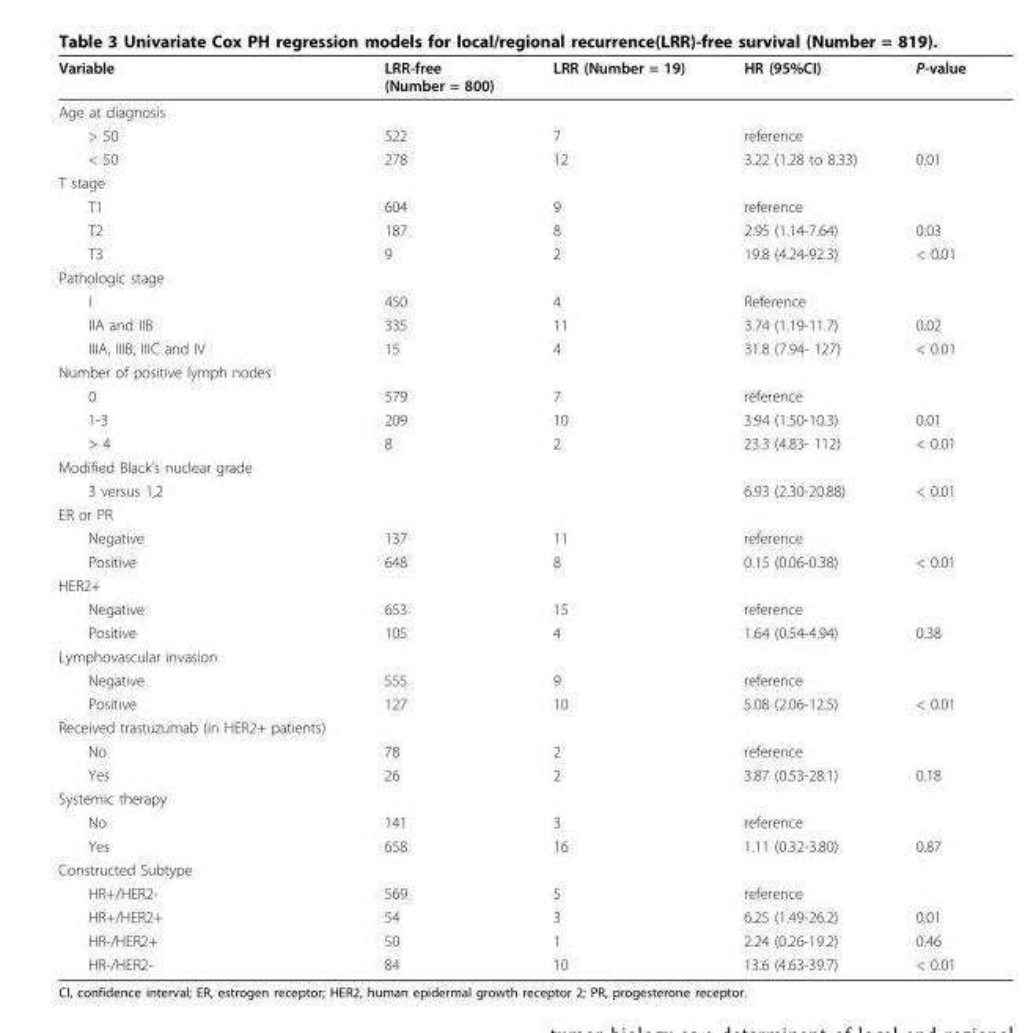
<table><thead><tr><td>Variable</td><td>LRR-free (Number = 800)</td><td>LRR (Number = 19)</td><td>HR (95%CI)</td><td>P-value</td></tr></thead><tbody><tr><td colspan="5">Age at diagnosis</td></tr><tr><td>&gt; 50</td><td>522</td><td>7</td><td>reference</td><td></td></tr><tr><td>&lt; 50</td><td>278</td><td>12</td><td>3.22 (1.28 to 8.33)</td><td>0.01</td></tr><tr><td colspan="5">T stage</td></tr><tr><td>T1</td><td>604</td><td>9</td><td>reference</td><td></td></tr><tr><td>T2</td><td>187</td><td>8</td><td>2.95 (1.14-7.64)</td><td>0.03</td></tr><tr><td>T3</td><td>9</td><td>2</td><td>19.8 (4.24-92.3)</td><td>&lt; 0.01</td></tr><tr><td colspan="5">Pathologic stage</td></tr><tr><td>I</td><td>450</td><td>4</td><td>Reference</td><td></td></tr><tr><td>IIA and IIB</td><td>335</td><td>11</td><td>3.74 (1.19-11.7)</td><td>0.02</td></tr><tr><td>IIIA, IIIB, IIIC and IV</td><td>15</td><td>4</td><td>31.8 (7.94- 127)</td><td>&lt; 0.01</td></tr><tr><td colspan="5">Number of positive lymph nodes</td></tr><tr><td>0</td><td>579</td><td>7</td><td>reference</td><td></td></tr><tr><td>1-3</td><td>209</td><td>10</td><td>3.94 (1.50-10.3)</td><td>0.01</td></tr><tr><td>&gt; 4</td><td>8</td><td>2</td><td>23.3 (4.83- 112)</td><td>&lt; 0.01</td></tr><tr><td colspan="5">Modified Black’s nuclear grade</td></tr><tr><td>3 versus 1,2</td><td></td><td></td><td>6.93 (2.30-20.88)</td><td>&lt; 0.01</td></tr><tr><td colspan="5">ER or PR</td></tr><tr><td>Negative</td><td>137</td><td>11</td><td>reference</td><td></td></tr><tr><td>Positive</td><td>648</td><td>8</td><td>0.15 (0.06-0.38)</td><td>&lt; 0.01</td></tr><tr><td colspan="5">HER2+</td></tr><tr><td>Negative</td><td>653</td><td>15</td><td>reference</td><td></td></tr><tr><td>Positive</td><td>105</td><td>4</td><td>1.64 (0.54-4.94)</td><td>0.38</td></tr><tr><td colspan="5">Lymphovascular invasion</td></tr><tr><td>Negative</td><td>555</td><td>9</td><td>reference</td><td></td></tr><tr><td>Positive</td><td>127</td><td>10</td><td>5.08 (2.06-12.5)</td><td>&lt; 0.01</td></tr><tr><td colspan="5">Received trastuzumab (in HER2+ patients)</td></tr><tr><td>No</td><td>78</td><td>2</td><td>reference</td><td></td></tr><tr><td>Yes</td><td>26</td><td>2</td><td>3.87 (0.53-28.1)</td><td>0.18</td></tr><tr><td colspan="5">Systemic therapy</td></tr><tr><td>No</td><td>141</td><td>3</td><td>reference</td><td></td></tr><tr><td>Yes</td><td>658</td><td>16</td><td>1.11 (0.32-3.80)</td><td>0.87</td></tr><tr><td colspan="5">Constructed Subtype</td></tr><tr><td>HR+/HER2-</td><td>569</td><td>5</td><td>reference</td><td></td></tr><tr><td>HR+/HER2+</td><td>54</td><td>3</td><td>6.25 (1.49-26.2)</td><td>0.01</td></tr><tr><td>HR-/HER2+</td><td>50</td><td>1</td><td>2.24 (0.26-19.2)</td><td>0.46</td></tr><tr><td>HR-/HER2-</td><td>84</td><td>10</td><td>13.6 (4.63-39.7)</td><td>&lt; 0.01</td></tr></tbody></table>